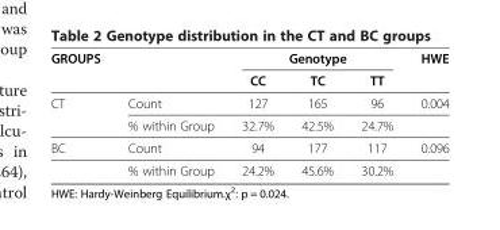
<table><thead><tr><td rowspan="2">GROUPS</td><td rowspan="2"></td><td colspan="3">Genotype</td><td rowspan="2">HWE</td></tr><tr><td>CC</td><td>TC</td><td>TT</td></tr></thead><tbody><tr><td rowspan="2">CT</td><td>Count</td><td>127</td><td>165</td><td>96</td><td>0.004</td></tr><tr><td>% within Group</td><td>32.7%</td><td>42.5%</td><td>24.7%</td><td></td></tr><tr><td rowspan="2">BC</td><td>Count</td><td>94</td><td>177</td><td>117</td><td>0.096</td></tr><tr><td>% within Group</td><td>24.2%</td><td>45.6%</td><td>30.2%</td><td></td></tr></tbody></table>